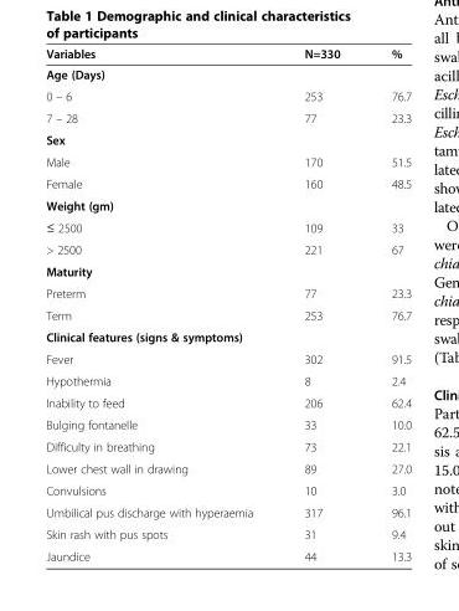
<table><thead><tr><td>Variables</td><td>N=330</td><td>%</td></tr></thead><tbody><tr><td colspan="3">Age (Days)</td></tr><tr><td>0 – 6</td><td>253</td><td>76.7</td></tr><tr><td>7 – 28</td><td>77</td><td>23.3</td></tr><tr><td colspan="3">Sex</td></tr><tr><td>Male</td><td>170</td><td>51.5</td></tr><tr><td>Female</td><td>160</td><td>48.5</td></tr><tr><td colspan="3">Weight (gm)</td></tr><tr><td>≤ 2500</td><td>109</td><td>33</td></tr><tr><td>&gt; 2500</td><td>221</td><td>67</td></tr><tr><td colspan="3">Maturity</td></tr><tr><td>Preterm</td><td>77</td><td>23.3</td></tr><tr><td>Term</td><td>253</td><td>76.7</td></tr><tr><td colspan="3">Clinical features (signs &amp; symptoms)</td></tr><tr><td>Fever</td><td>302</td><td>91.5</td></tr><tr><td>Hypothermia</td><td>8</td><td>2.4</td></tr><tr><td>Inability to feed</td><td>206</td><td>62.4</td></tr><tr><td>Bulging fontanelle</td><td>33</td><td>10.0</td></tr><tr><td>Difficulty in breathing</td><td>73</td><td>22.1</td></tr><tr><td>Lower chest wall in drawing</td><td>89</td><td>27.0</td></tr><tr><td>Convulsions</td><td>10</td><td>3.0</td></tr><tr><td>Umbilical pus discharge with hyperaemia</td><td>317</td><td>96.1</td></tr><tr><td>Skin rash with pus spots</td><td>31</td><td>9.4</td></tr><tr><td>Jaundice</td><td>44</td><td>13.3</td></tr></tbody></table>